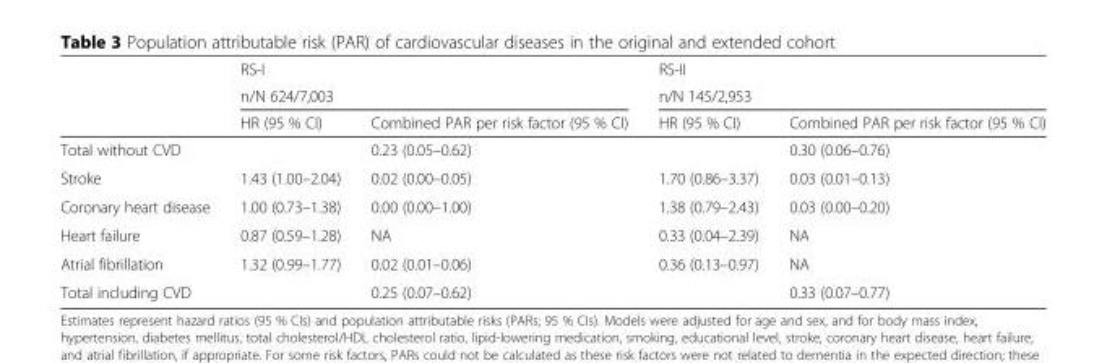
<table><thead><tr><td rowspan="3"></td><td rowspan="2" colspan="2">RS-I n/N 624/7,003</td><td rowspan="2" colspan="2">RS-II n/N 145/2,953</td></tr><tr></tr><tr><td>HR (95 % CI)</td><td>Combined PAR per risk factor (95 % CI)</td><td>HR (95 % CI)</td><td>Combined PAR per risk factor (95 % CI)</td></tr></thead><tbody><tr><td>Total without CVD</td><td></td><td>0.23 (0.05–0.62)</td><td></td><td>0.30 (0.06–0.76)</td></tr><tr><td>Stroke</td><td>1.43 (1.00–2.04)</td><td>0.02 (0.00–0.05)</td><td>1.70 (0.86–3.37)</td><td>0.03 (0.01–0.13)</td></tr><tr><td>Coronary heart disease</td><td>1.00 (0.73–1.38)</td><td>0.00 (0.00–1.00)</td><td>1.38 (0.79–2.43)</td><td>0.03 (0.00–0.20)</td></tr><tr><td>Heart failure</td><td>0.87 (0.59–1.28)</td><td>NA</td><td>0.33 (0.04–2.39)</td><td>NA</td></tr><tr><td>Atrial fibrillation</td><td>1.32 (0.99–1.77)</td><td>0.02 (0.01–0.06)</td><td>0.36 (0.13–0.97)</td><td>NA</td></tr><tr><td>Total including CVD</td><td></td><td>0.25 (0.07–0.62)</td><td></td><td>0.33 (0.07–0.77)</td></tr></tbody></table>